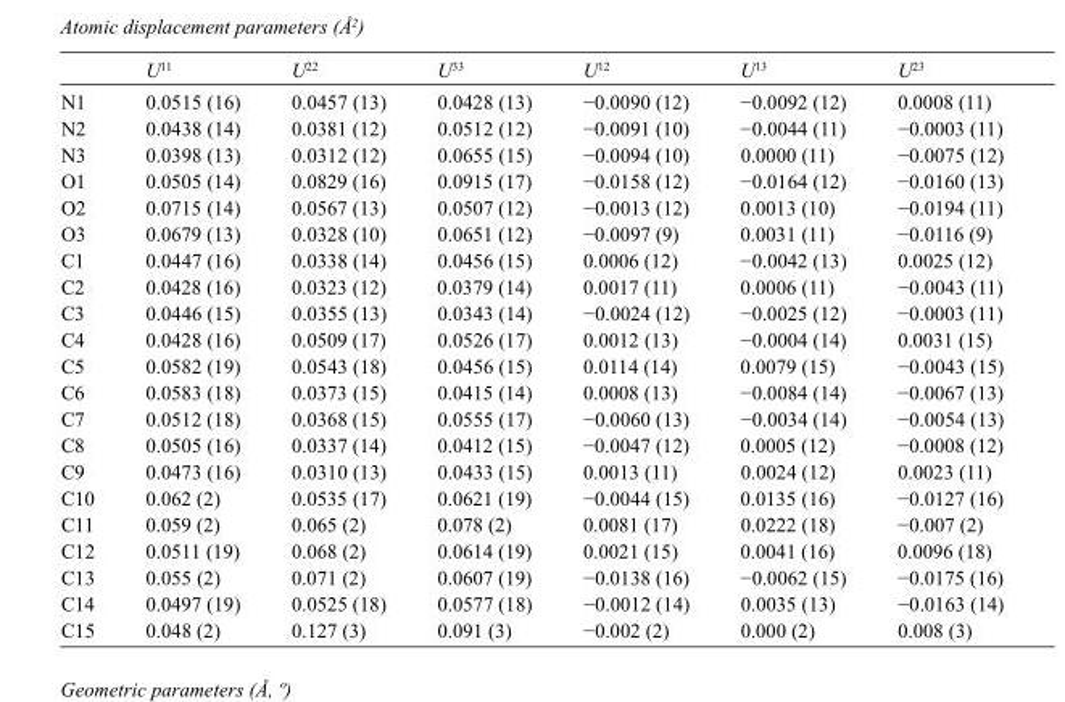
<table><thead><tr><td></td><td>U<sup>11</sup></td><td>U<sup>22</sup></td><td>U<sup>33</sup></td><td>U<sup>12</sup></td><td>U<sup>13</sup></td><td>U<sup>23</sup></td></tr></thead><tbody><tr><td>N1</td><td>0.0515 (16)</td><td>0.0457 (13)</td><td>0.0428 (13)</td><td>−0.0090 (12)</td><td>−0.0092 (12)</td><td>0.0008 (11)</td></tr><tr><td>N2</td><td>0.0438 (14)</td><td>0.0381 (12)</td><td>0.0512 (12)</td><td>−0.0091 (10)</td><td>−0.0044 (11)</td><td>−0.0003 (11)</td></tr><tr><td>N3</td><td>0.0398 (13)</td><td>0.0312 (12)</td><td>0.0655 (15)</td><td>−0.0094 (10)</td><td>0.0000 (11)</td><td>−0.0075 (12)</td></tr><tr><td>O1</td><td>0.0505 (14)</td><td>0.0829 (16)</td><td>0.0915 (17)</td><td>−0.0158 (12)</td><td>−0.0164 (12)</td><td>−0.0160 (13)</td></tr><tr><td>O2</td><td>0.0715 (14)</td><td>0.0567 (13)</td><td>0.0507 (12)</td><td>−0.0013 (12)</td><td>0.0013 (10)</td><td>−0.0194 (11)</td></tr><tr><td>O3</td><td>0.0679 (13)</td><td>0.0328 (10)</td><td>0.0651 (12)</td><td>−0.0097 (9)</td><td>0.0031 (11)</td><td>−0.0116 (9)</td></tr><tr><td>C1</td><td>0.0447 (16)</td><td>0.0338 (14)</td><td>0.0456 (15)</td><td>0.0006 (12)</td><td>−0.0042 (13)</td><td>0.0025 (12)</td></tr><tr><td>C2</td><td>0.0428 (16)</td><td>0.0323 (12)</td><td>0.0379 (14)</td><td>0.0017 (11)</td><td>0.0006 (11)</td><td>−0.0043 (11)</td></tr><tr><td>C3</td><td>0.0446 (15)</td><td>0.0355 (13)</td><td>0.0343 (14)</td><td>−0.0024 (12)</td><td>−0.0025 (12)</td><td>−0.0003 (11)</td></tr><tr><td>C4</td><td>0.0428 (16)</td><td>0.0509 (17)</td><td>0.0526 (17)</td><td>0.0012 (13)</td><td>−0.0004 (14)</td><td>0.0031 (15)</td></tr><tr><td>C5</td><td>0.0582 (19)</td><td>0.0543 (18)</td><td>0.0456 (15)</td><td>0.0114 (14)</td><td>0.0079 (15)</td><td>−0.0043 (15)</td></tr><tr><td>C6</td><td>0.0583 (18)</td><td>0.0373 (15)</td><td>0.0415 (14)</td><td>0.0008 (13)</td><td>−0.0084 (14)</td><td>−0.0067 (13)</td></tr><tr><td>C7</td><td>0.0512 (18)</td><td>0.0368 (15)</td><td>0.0555 (17)</td><td>−0.0060 (13)</td><td>−0.0034 (14)</td><td>−0.0054 (13)</td></tr><tr><td>C8</td><td>0.0505 (16)</td><td>0.0337 (14)</td><td>0.0412 (15)</td><td>−0.0047 (12)</td><td>0.0005 (12)</td><td>−0.0008 (12)</td></tr><tr><td>C9</td><td>0.0473 (16)</td><td>0.0310 (13)</td><td>0.0433 (15)</td><td>0.0013 (11)</td><td>0.0024 (12)</td><td>0.0023 (11)</td></tr><tr><td>C10</td><td>0.062 (2)</td><td>0.0535 (17)</td><td>0.0621 (19)</td><td>−0.0044 (15)</td><td>0.0135 (16)</td><td>−0.0127 (16)</td></tr><tr><td>C11</td><td>0.059 (2)</td><td>0.065 (2)</td><td>0.078 (2)</td><td>0.0081 (17)</td><td>0.0222 (18)</td><td>−0.007 (2)</td></tr><tr><td>C12</td><td>0.0511 (19)</td><td>0.068 (2)</td><td>0.0614 (19)</td><td>0.0021 (15)</td><td>0.0041 (16)</td><td>0.0096 (18)</td></tr><tr><td>C13</td><td>0.055 (2)</td><td>0.071 (2)</td><td>0.0607 (19)</td><td>−0.0138 (16)</td><td>−0.0062 (15)</td><td>−0.0175 (16)</td></tr><tr><td>C14</td><td>0.0497 (19)</td><td>0.0525 (18)</td><td>0.0577 (18)</td><td>−0.0012 (14)</td><td>0.0035 (13)</td><td>−0.0163 (14)</td></tr><tr><td>C15</td><td>0.048 (2)</td><td>0.127 (3)</td><td>0.091 (3)</td><td>−0.002 (2)</td><td>0.000 (2)</td><td>0.008 (3)</td></tr></tbody></table>